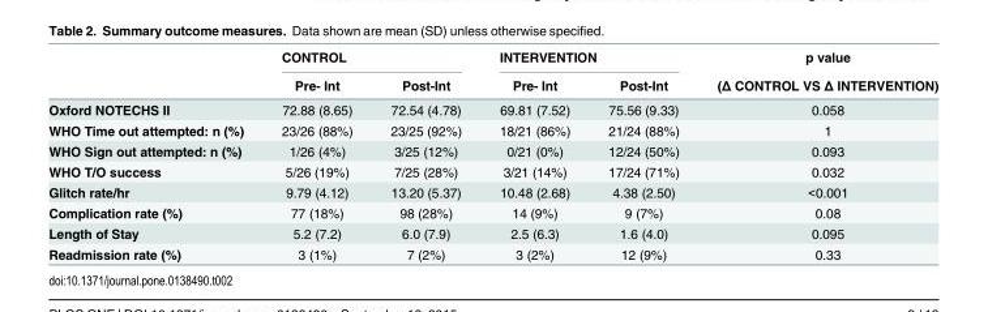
<table><thead><tr><td rowspan="2"></td><td colspan="2">CONTROL</td><td colspan="2">INTERVENTION</td><td rowspan="2">p value (Δ CONTROL VS Δ INTERVENTION)</td></tr><tr><td>Pre- Int</td><td>Post-Int</td><td>Pre- Int</td><td>Post-Int</td></tr></thead><tbody><tr><td>Oxford NOTECHS II</td><td>72.88 (8.65)</td><td>72.54 (4.78)</td><td>69.81 (7.52)</td><td>75.56 (9.33)</td><td>0.058</td></tr><tr><td>WHO Time out attempted: n (%)</td><td>23/26 (88%)</td><td>23/25 (92%)</td><td>18/21 (86%)</td><td>21/24 (88%)</td><td>1</td></tr><tr><td>WHO Sign out attempted: n (%)</td><td>1/26 (4%)</td><td>3/25 (12%)</td><td>0/21 (0%)</td><td>12/24 (50%)</td><td>0.093</td></tr><tr><td>WHO T/O success</td><td>5/26 (19%)</td><td>7/25 (28%)</td><td>3/21 (14%)</td><td>17/24 (71%)</td><td>0.032</td></tr><tr><td>Glitch rate/hr</td><td>9.79 (4.12)</td><td>13.20 (5.37)</td><td>10.48 (2.68)</td><td>4.38 (2.50)</td><td>&lt;0.001</td></tr><tr><td>Complication rate (%)</td><td>77 (18%)</td><td>98 (28%)</td><td>14 (9%)</td><td>9 (7%)</td><td>0.08</td></tr><tr><td>Length of Stay</td><td>5.2 (7.2)</td><td>6.0 (7.9)</td><td>2.5 (6.3)</td><td>1.6 (4.0)</td><td>0.095</td></tr><tr><td>Readmission rate (%)</td><td>3 (1%)</td><td>7 (2%)</td><td>3 (2%)</td><td>12 (9%)</td><td>0.33</td></tr></tbody></table>